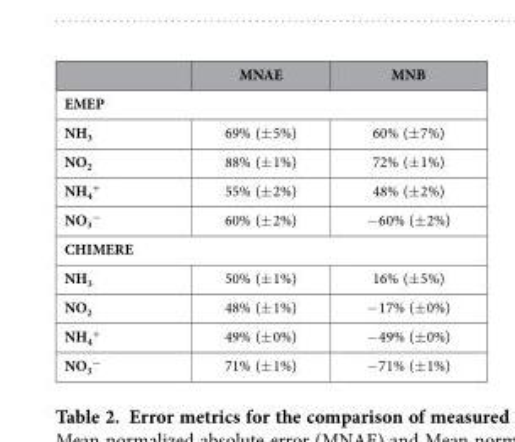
<table><thead><tr><td></td><td>MNAE</td><td>MNB</td></tr></thead><tbody><tr><td colspan="3">EMEP</td></tr><tr><td>NH<sub>3</sub></td><td>69% (± 5%)</td><td>60% (± 7%)</td></tr><tr><td>NO<sub>2</sub></td><td>88% (± 1%)</td><td>72% (± 1%)</td></tr><tr><td>NH<sub>4</sub> <sup>+</sup></td><td>55% (± 2%)</td><td>48% (± 2%)</td></tr><tr><td>NO<sub>3</sub> <sup>−</sup></td><td>60% (± 2%)</td><td>− 60% (± 2%)</td></tr><tr><td colspan="3">CHIMERE</td></tr><tr><td>NH<sub>3</sub></td><td>50% (± 1%)</td><td>16% (± 5%)</td></tr><tr><td>NO<sub>2</sub></td><td>48% (± 1%)</td><td>− 17% (± 0%)</td></tr><tr><td>NH<sub>4</sub> <sup>+</sup></td><td>49% (± 0%)</td><td>− 49% (± 0%)</td></tr><tr><td>NO<sub>3</sub> <sup>−</sup></td><td>71% (± 1%)</td><td>− 71% (± 1%)</td></tr></tbody></table>